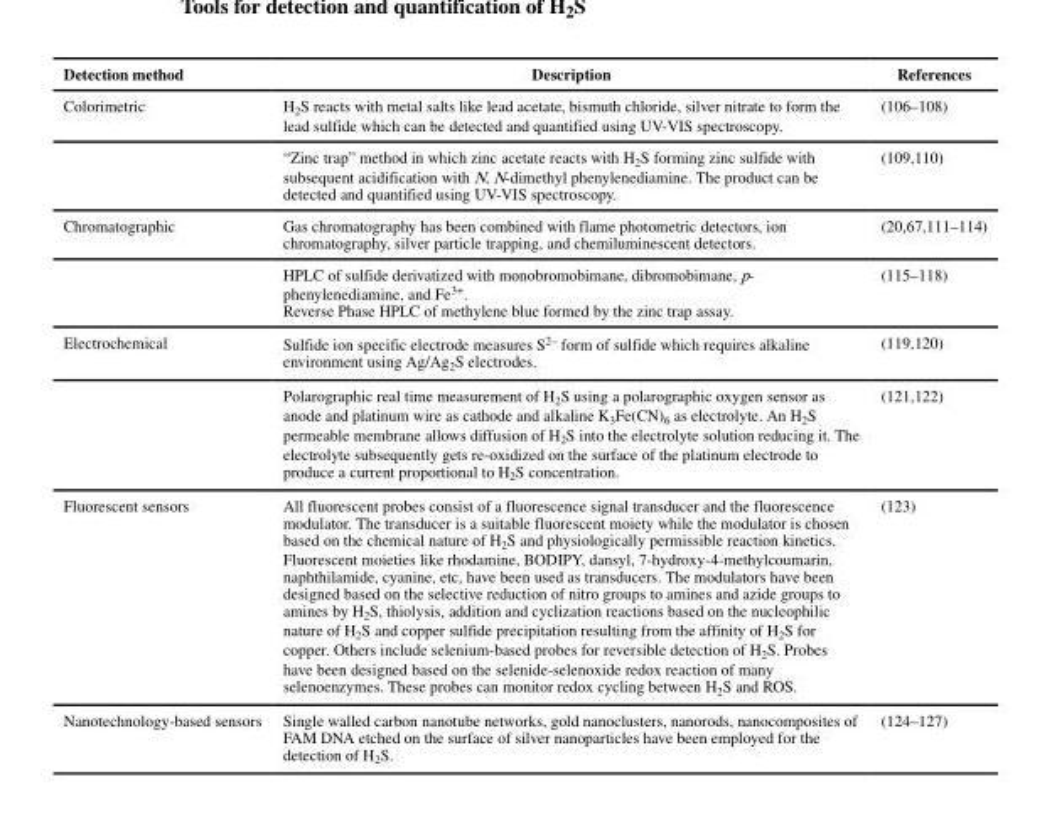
<table><thead><tr><td>Detection method</td><td>Description</td><td>References</td></tr></thead><tbody><tr><td rowspan="2">Colorimetric</td><td>H<sub>2</sub>S reacts with metal salts like lead acetate, bismuth chloride, silver nitrate to form the lead sulfide which can be detected and quantified using UV-VIS spectroscopy.</td><td>(106–108)</td></tr><tr><td>“Zinc trap” method in which zinc acetate reacts with H<sub>2</sub>S forming zinc sulfide with subsequent acidification with N, N-dimethyl phenylenediamine. The product can be detected and quantified using UV-VIS spectroscopy.</td><td>(109,110)</td></tr><tr><td rowspan="2">Chromatographic</td><td>Gas chromatography has been combined with flame photometric detectors, ion chromatography, silver particle trapping, and chemiluminescent detectors.</td><td>(20,67,111–114)</td></tr><tr><td>HPLC of sulfide derivatized with monobromobimane, dibromobimane, p- phenylenediamine, and Fe<sup>3+</sup>. Reverse Phase HPLC of methylene blue formed by the zinc trap assay.</td><td>(115–118)</td></tr><tr><td rowspan="2">Electrochemical</td><td>Sulfide ion specific electrode measures S<sup>2–</sup> form of sulfide which requires alkaline environment using Ag/Ag<sub>2</sub>S electrodes.</td><td>(119,120)</td></tr><tr><td>Polarographic real time measurement of H<sub>2</sub>S using a polarographic oxygen sensor as anode and platinum wire as cathode and alkaline K<sub>3</sub>Fe(CN)<sub>6</sub> as electrolyte. An H<sub>2</sub>S permeable membrane allows diffusion of H<sub>2</sub>S into the electrolyte solution reducing it. The electrolyte subsequently gets re-oxidized on the surface of the platinum electrode to produce a current proportional to H<sub>2</sub>S concentration.</td><td>(121,122)</td></tr><tr><td>Fluorescent sensors</td><td>All fluorescent probes consist of a fluorescence signal transducer and the fluorescence modulator. The transducer is a suitable fluorescent moiety while the modulator is chosen based on the chemical nature of H<sub>2</sub>S and physiologically permissible reaction kinetics. Fluorescent moieties like rhodamine, BODIPY, dansyl, 7-hydroxy-4-methylcoumarin, naphthilamide, cyanine, etc, have been used as transducers. The modulators have been designed based on the selective reduction of nitro groups to amines and azide groups to amines by H<sub>2</sub>S, thiolysis, addition and cyclization reactions based on the nucleophilic nature of H<sub>2</sub>S and copper sulfide precipitation resulting from the affinity of H<sub>2</sub>S for copper. Others include selenium-based probes for reversible detection of H<sub>2</sub>S. Probes have been designed based on the selenide-selenoxide redox reaction of many selenoenzymes. These probes can monitor redox cycling between H<sub>2</sub>S and ROS.</td><td>(123)</td></tr><tr><td>Nanotechnology-based sensors</td><td>Single walled carbon nanotube networks, gold nanoclusters, nanorods, nanocomposites of FAM DNA etched on the surface of silver nanoparticles have been employed for the detection of H<sub>2</sub>S.</td><td>(124–127)</td></tr></tbody></table>